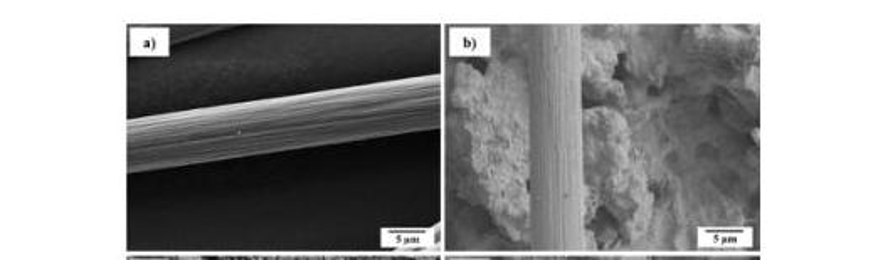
<table><thead><tr><td>Chemical Treatment</td><td>Contact Angle (°)</td><td>Initial Setting Time (min)</td><td>Final Setting Time (min)</td></tr></thead><tbody><tr><td>Pure CPC</td><td>-</td><td>25.0 ± 0.5</td><td>105 ± 5</td></tr><tr><td>untreated</td><td>71 ± 4</td><td>20.0 ± 0.5</td><td>65 ± 2</td></tr><tr><td>H<sub>2</sub>O<sub>2</sub></td><td>64 ± 6</td><td>21.0 ± 0.5</td><td>80 ± 2</td></tr><tr><td>aqua regia followed by CaCl<sub>2</sub></td><td>62 ± 4</td><td>18.5 ± 0.5</td><td>50 ± 2</td></tr></tbody></table>